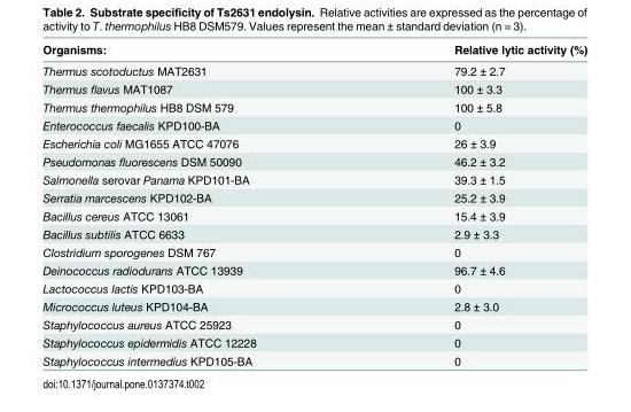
<table><thead><tr><td>Organisms:</td><td>Relative lytic activity (%)</td></tr></thead><tbody><tr><td>Thermus scotoductus MAT2631</td><td>79.2 ± 2.7</td></tr><tr><td>Thermus flavus MAT1087</td><td>100 ± 3.3</td></tr><tr><td>Thermus thermophilus HB8 DSM 579</td><td>100 ± 5.8</td></tr><tr><td>Enterococcus faecalis KPD100-BA</td><td>0</td></tr><tr><td>Escherichia coli MG1655 ATCC 47076</td><td>26 ± 3.9</td></tr><tr><td>Pseudomonas fluorescens DSM 50090</td><td>46.2 ± 3.2</td></tr><tr><td>Salmonella serovar Panama KPD101-BA</td><td>39.3 ± 1.5</td></tr><tr><td>Serratia marcescens KPD102-BA</td><td>25.2 ± 3.9</td></tr><tr><td>Bacillus cereus ATCC 13061</td><td>15.4 ± 3.9</td></tr><tr><td>Bacillus subtilis ATCC 6633</td><td>2.9 ± 3.3</td></tr><tr><td>Clostridium sporogenes DSM 767</td><td>0</td></tr><tr><td>Deinococcus radiodurans ATCC 13939</td><td>96.7 ± 4.6</td></tr><tr><td>Lactococcus lactis KPD103-BA</td><td>0</td></tr><tr><td>Micrococcus luteus KPD104-BA</td><td>2.8 ± 3.0</td></tr><tr><td>Staphylococcus aureus ATCC 25923</td><td>0</td></tr><tr><td>Staphylococcus epidermidis ATCC 12228</td><td>0</td></tr><tr><td>Staphylococcus intermedius KPD105-BA</td><td>0</td></tr></tbody></table>